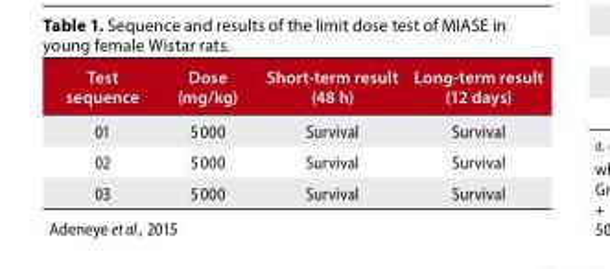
<table><thead><tr><td>Test sequence</td><td>Dose (mg/kg)</td><td>Short-term result (48 h)</td><td>Long-term result (12 days)</td></tr></thead><tbody><tr><td>01</td><td>5 000</td><td>Survival</td><td>Survival</td></tr><tr><td>02</td><td>5 000</td><td>Survival</td><td>Survival</td></tr><tr><td>03</td><td>5 000</td><td>Survival</td><td>Survival</td></tr></tbody></table>